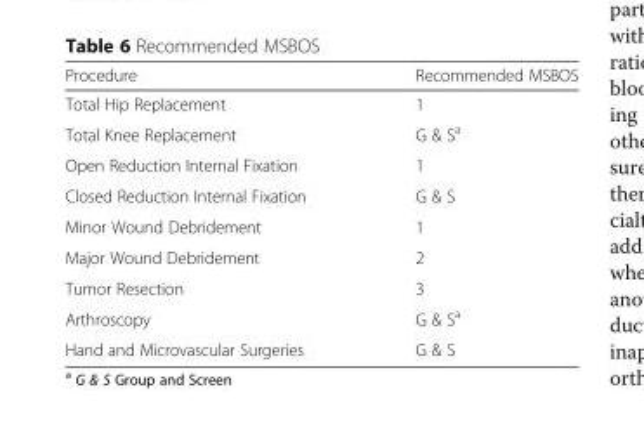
<table><thead><tr><td>Procedure</td><td>Recommended MSBOS</td></tr></thead><tbody><tr><td>Total Hip Replacement</td><td>1</td></tr><tr><td>Total Knee Replacement</td><td>G &amp; S<sup>a</sup></td></tr><tr><td>Open Reduction Internal Fixation</td><td>1</td></tr><tr><td>Closed Reduction Internal Fixation</td><td>G &amp; S</td></tr><tr><td>Minor Wound Debridement</td><td>1</td></tr><tr><td>Major Wound Debridement</td><td>2</td></tr><tr><td>Tumor Resection</td><td>3</td></tr><tr><td>Arthroscopy</td><td>G &amp; S<sup>a</sup></td></tr><tr><td>Hand and Microvascular Surgeries</td><td>G &amp; S</td></tr></tbody></table>